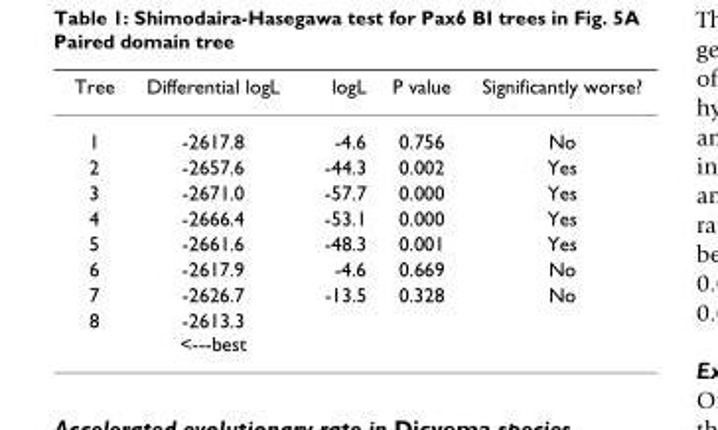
<table><thead><tr><td>Tree</td><td>Differential logL</td><td>logL</td><td>P value</td><td>Significantly worse?</td></tr></thead><tbody><tr><td>1</td><td>-2617.8</td><td>-4.6</td><td>0.756</td><td>No</td></tr><tr><td>2</td><td>-2657.6</td><td>-44.3</td><td>0.002</td><td>Yes</td></tr><tr><td>3</td><td>-2671.0</td><td>-57.7</td><td>0.000</td><td>Yes</td></tr><tr><td>4</td><td>-2666.4</td><td>-53.1</td><td>0.000</td><td>Yes</td></tr><tr><td>5</td><td>-2661.6</td><td>-48.3</td><td>0.001</td><td>Yes</td></tr><tr><td>6</td><td>-2617.9</td><td>-4.6</td><td>0.669</td><td>No</td></tr><tr><td>7</td><td>-2626.7</td><td>-13.5</td><td>0.328</td><td>No</td></tr><tr><td>8</td><td>-2613.3 &lt;---best</td><td></td><td></td><td></td></tr></tbody></table>